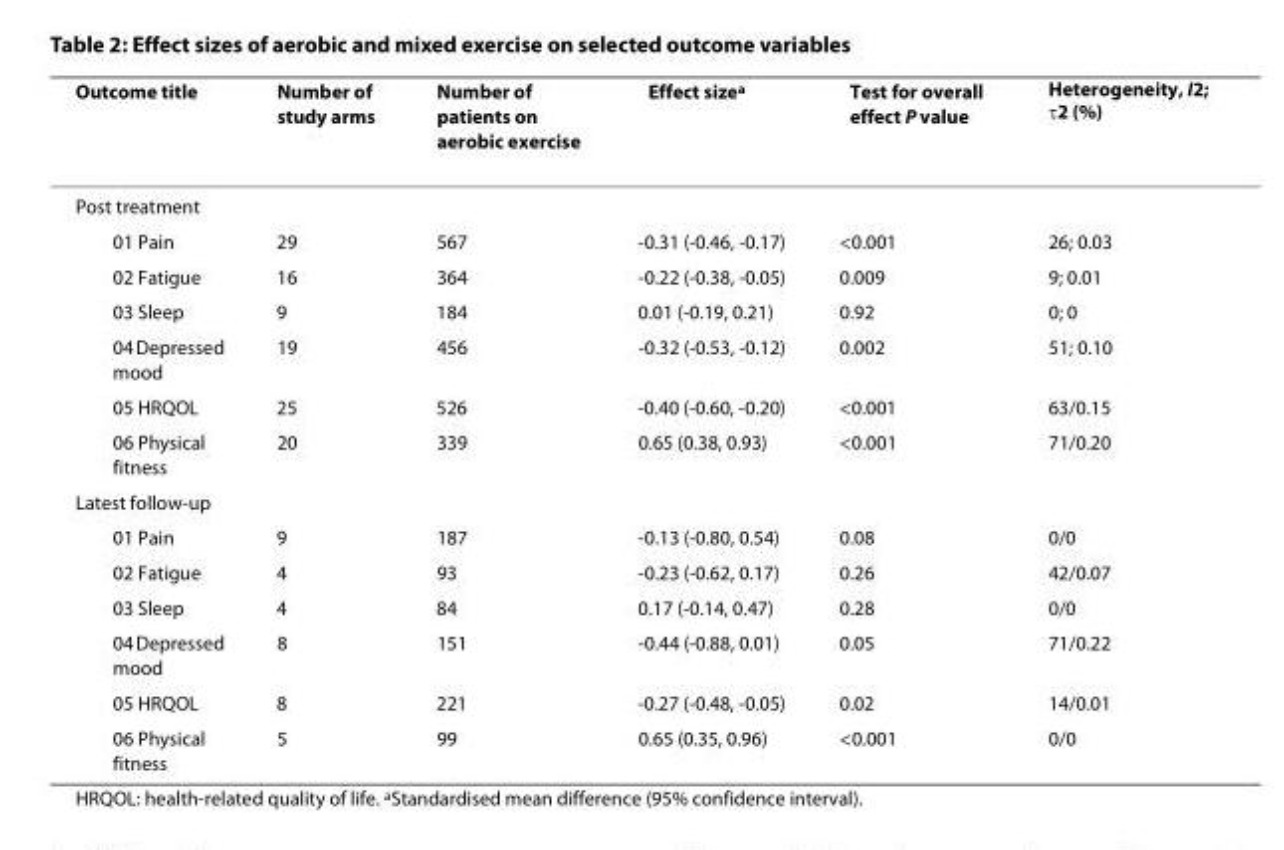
<table><thead><tr><td>Outcome title</td><td>Number of study arms</td><td>Number of patients on aerobic exercise</td><td>Effect size<sup>a</sup></td><td>Test for overall effect P value</td><td>Heterogeneity, I<sup>2</sup>; τ<sup>2</sup> (%)</td></tr></thead><tbody><tr><td colspan="6">Post treatment</td></tr><tr><td>01 Pain</td><td>29</td><td>567</td><td>-0.31 (-0.46, -0.17)</td><td>&lt;0.001</td><td>26; 0.03</td></tr><tr><td>02 Fatigue</td><td>16</td><td>364</td><td>-0.22 (-0.38, -0.05)</td><td>0.009</td><td>9; 0.01</td></tr><tr><td>03 Sleep</td><td>9</td><td>184</td><td>0.01 (-0.19, 0.21)</td><td>0.92</td><td>0; 0</td></tr><tr><td>04 Depressed mood</td><td>19</td><td>456</td><td>-0.32 (-0.53, -0.12)</td><td>0.002</td><td>51; 0.10</td></tr><tr><td>05 HRQOL</td><td>25</td><td>526</td><td>-0.40 (-0.60, -0.20)</td><td>&lt;0.001</td><td>63/0.15</td></tr><tr><td>06 Physical fitness</td><td>20</td><td>339</td><td>0.65 (0.38, 0.93)</td><td>&lt;0.001</td><td>71/0.20</td></tr><tr><td colspan="6">Latest follow-up</td></tr><tr><td>01 Pain</td><td>9</td><td>187</td><td>-0.13 (-0.80, 0.54)</td><td>0.08</td><td>0/0</td></tr><tr><td>02 Fatigue</td><td>4</td><td>93</td><td>-0.23 (-0.62, 0.17)</td><td>0.26</td><td>42/0.07</td></tr><tr><td>03 Sleep</td><td>4</td><td>84</td><td>0.17 (-0.14, 0.47)</td><td>0.28</td><td>0/0</td></tr><tr><td>04 Depressed mood</td><td>8</td><td>151</td><td>-0.44 (-0.88, 0.01)</td><td>0.05</td><td>71/0.22</td></tr><tr><td>05 HRQOL</td><td>8</td><td>221</td><td>-0.27 (-0.48, -0.05)</td><td>0.02</td><td>14/0.01</td></tr><tr><td>06 Physical fitness</td><td>5</td><td>99</td><td>0.65 (0.35, 0.96)</td><td>&lt;0.001</td><td>0/0</td></tr></tbody></table>